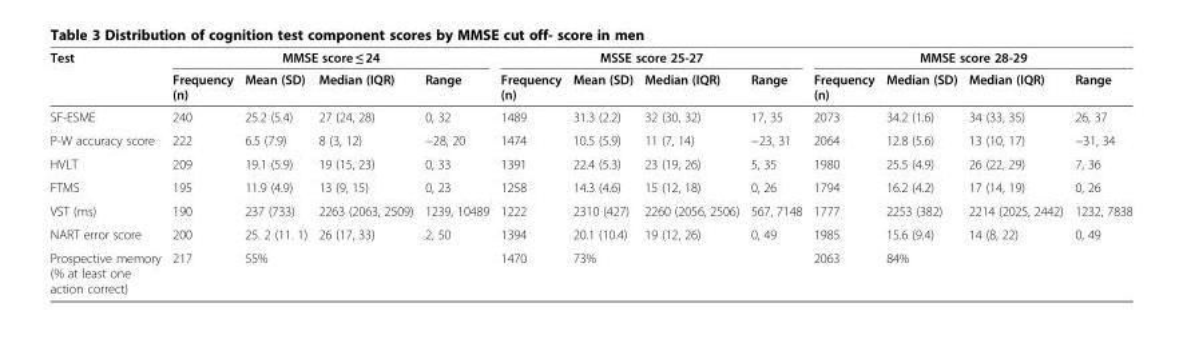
<table><thead><tr><td rowspan="2">Test</td><td colspan="4">MMSE score ≤ 24</td><td colspan="4">MSSE score 25-27</td><td colspan="4">MMSE score 28-29</td></tr><tr><td>Frequency (n)</td><td>Mean (SD)</td><td>Median (IQR)</td><td>Range</td><td>Frequency (n)</td><td>Mean (SD)</td><td>Median (IQR)</td><td>Range</td><td>Frequency (n)</td><td>Median (SD)</td><td>Median (IQR)</td><td>Range</td></tr></thead><tbody><tr><td>SF-ESME</td><td>240</td><td>25.2 (5.4)</td><td>27 (24, 28)</td><td>0, 32</td><td>1489</td><td>31.3 (2.2)</td><td>32 (30, 32)</td><td>17, 35</td><td>2073</td><td>34.2 (1.6)</td><td>34 (33, 35)</td><td>26, 37</td></tr><tr><td>P-W accuracy score</td><td>222</td><td>6.5 (7.9)</td><td>8 (3, 12)</td><td>−28, 20</td><td>1474</td><td>10.5 (5.9)</td><td>11 (7, 14)</td><td>−23, 31</td><td>2064</td><td>12.8 (5.6)</td><td>13 (10, 17)</td><td>−31, 34</td></tr><tr><td>HVLT</td><td>209</td><td>19.1 (5.9)</td><td>19 (15, 23)</td><td>0, 33</td><td>1391</td><td>22.4 (5.3)</td><td>23 (19, 26)</td><td>5, 35</td><td>1980</td><td>25.5 (4.9)</td><td>26 (22, 29)</td><td>7, 36</td></tr><tr><td>FTMS</td><td>195</td><td>11.9 (4.9)</td><td>13 (9, 15)</td><td>0, 23</td><td>1258</td><td>14.3 (4.6)</td><td>15 (12, 18)</td><td>0, 26</td><td>1794</td><td>16.2 (4.2)</td><td>17 (14, 19)</td><td>0, 26</td></tr><tr><td>VST (ms)</td><td>190</td><td>237 (733)</td><td>2263 (2063, 2509)</td><td>1239, 10489</td><td>1222</td><td>2310 (427)</td><td>2260 (2056, 2506)</td><td>567, 7148</td><td>1777</td><td>2253 (382)</td><td>2214 (2025, 2442)</td><td>1232, 7838</td></tr><tr><td>NART error score</td><td>200</td><td>25. 2 (11. 1)</td><td>26 (17, 33)</td><td>2, 50</td><td>1394</td><td>20.1 (10.4)</td><td>19 (12, 26)</td><td>0, 49</td><td>1985</td><td>15.6 (9.4)</td><td>14 (8, 22)</td><td>0, 49</td></tr><tr><td>Prospective memory (% at least one action correct)</td><td>217</td><td colspan="3">55%</td><td>1470</td><td colspan="3">73%</td><td>2063</td><td colspan="3">84%</td></tr></tbody></table>